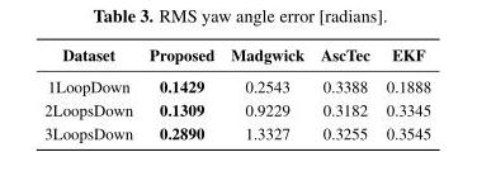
<table><thead><tr><td>Dataset</td><td>Proposed</td><td>Madgwick</td><td>AscTec</td><td>EKF</td></tr></thead><tbody><tr><td>1LoopDown</td><td>0.1429</td><td>0.2543</td><td>0.3388</td><td>0.1888</td></tr><tr><td>2LoopsDown</td><td>0.1309</td><td>0.9229</td><td>0.3182</td><td>0.3345</td></tr><tr><td>3LoopsDown</td><td>0.2890</td><td>1.3327</td><td>0.3255</td><td>0.3545</td></tr></tbody></table>